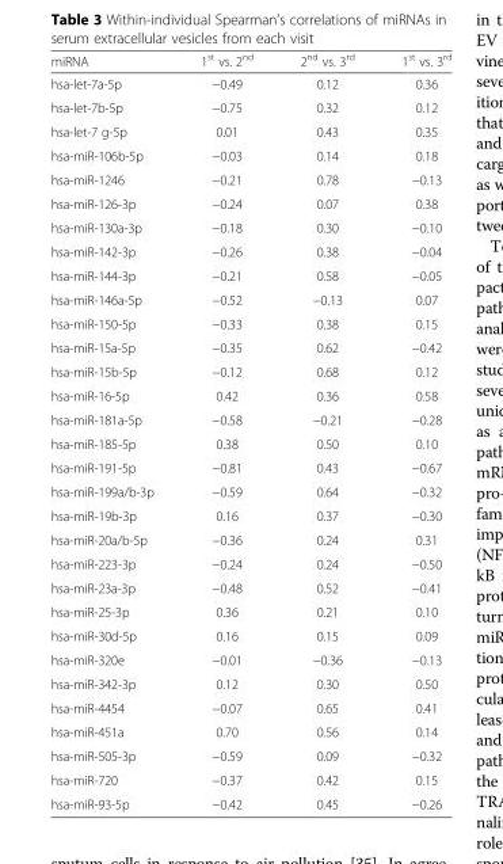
<table><thead><tr><td>miRNA</td><td>1<sup>st</sup> vs. 2<sup>nd</sup></td><td>2<sup>nd</sup> vs. 3<sup>rd</sup></td><td>1<sup>st</sup> vs. 3<sup>rd</sup></td></tr></thead><tbody><tr><td>hsa-let-7a-5p</td><td>−0.49</td><td>0.12</td><td>0.36</td></tr><tr><td>hsa-let-7b-5p</td><td>−0.75</td><td>0.32</td><td>0.12</td></tr><tr><td>hsa-let-7 g-5p</td><td>0.01</td><td>0.43</td><td>0.35</td></tr><tr><td>hsa-miR-106b-5p</td><td>−0.03</td><td>0.14</td><td>0.18</td></tr><tr><td>hsa-miR-1246</td><td>−0.21</td><td>0.78</td><td>−0.13</td></tr><tr><td>hsa-miR-126-3p</td><td>−0.24</td><td>0.07</td><td>0.38</td></tr><tr><td>hsa-miR-130a-3p</td><td>−0.18</td><td>0.30</td><td>−0.10</td></tr><tr><td>hsa-miR-142-3p</td><td>−0.26</td><td>0.38</td><td>−0.04</td></tr><tr><td>hsa-miR-144-3p</td><td>−0.21</td><td>0.58</td><td>−0.05</td></tr><tr><td>hsa-miR-146a-5p</td><td>−0.52</td><td>−0.13</td><td>0.07</td></tr><tr><td>hsa-miR-150-5p</td><td>−0.33</td><td>0.38</td><td>0.15</td></tr><tr><td>hsa-miR-15a-5p</td><td>−0.35</td><td>0.62</td><td>−0.42</td></tr><tr><td>hsa-miR-15b-5p</td><td>−0.12</td><td>0.68</td><td>0.12</td></tr><tr><td>hsa-miR-16-5p</td><td>0.42</td><td>0.36</td><td>0.58</td></tr><tr><td>hsa-miR-181a-5p</td><td>−0.58</td><td>−0.21</td><td>−0.28</td></tr><tr><td>hsa-miR-185-5p</td><td>0.38</td><td>0.50</td><td>0.10</td></tr><tr><td>hsa-miR-191-5p</td><td>−0.81</td><td>0.43</td><td>−0.67</td></tr><tr><td>hsa-miR-199a/b-3p</td><td>−0.59</td><td>0.64</td><td>−0.32</td></tr><tr><td>hsa-miR-19b-3p</td><td>0.16</td><td>0.37</td><td>−0.30</td></tr><tr><td>hsa-miR-20a/b-5p</td><td>−0.36</td><td>0.24</td><td>0.31</td></tr><tr><td>hsa-miR-223-3p</td><td>−0.24</td><td>0.24</td><td>−0.50</td></tr><tr><td>hsa-miR-23a-3p</td><td>−0.48</td><td>0.52</td><td>−0.41</td></tr><tr><td>hsa-miR-25-3p</td><td>0.36</td><td>0.21</td><td>0.10</td></tr><tr><td>hsa-miR-30d-5p</td><td>0.16</td><td>0.15</td><td>0.09</td></tr><tr><td>hsa-miR-320e</td><td>−0.01</td><td>−0.36</td><td>−0.13</td></tr><tr><td>hsa-miR-342-3p</td><td>0.12</td><td>0.30</td><td>0.50</td></tr><tr><td>hsa-miR-4454</td><td>−0.07</td><td>0.65</td><td>0.41</td></tr><tr><td>hsa-miR-451a</td><td>0.70</td><td>0.56</td><td>0.14</td></tr><tr><td>hsa-miR-505-3p</td><td>−0.59</td><td>0.09</td><td>−0.32</td></tr><tr><td>hsa-miR-720</td><td>−0.37</td><td>0.42</td><td>0.15</td></tr><tr><td>hsa-miR-93-5p</td><td>−0.42</td><td>0.45</td><td>−0.26</td></tr></tbody></table>